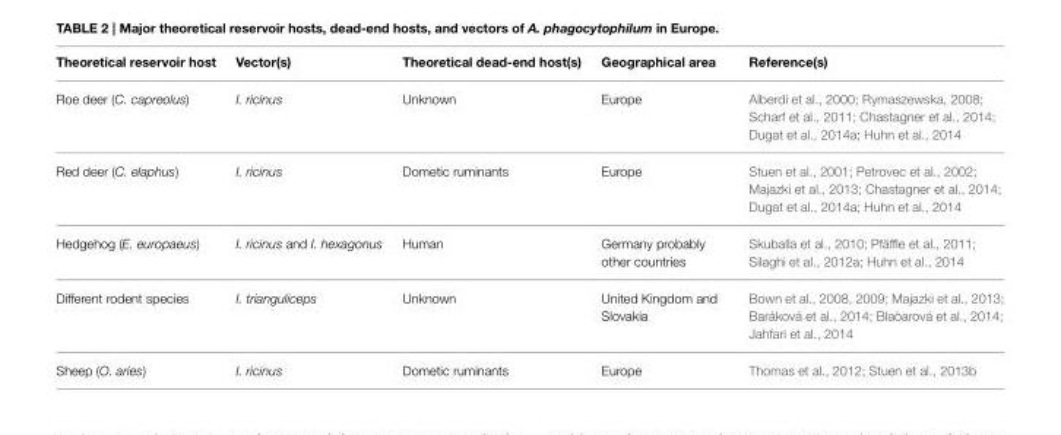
<table><thead><tr><td>Theoretical reservoir host</td><td>Vector(s)</td><td>Theoretical dead-end host(s)</td><td>Geographical area</td><td>Reference(s)</td></tr></thead><tbody><tr><td>Roe deer (C. capreolus)</td><td>I. ricinus</td><td>Unknown</td><td>Europe</td><td>Alberdi et al., 2000; Rymaszewska, 2008; Scharf et al., 2011; Chastagner et al., 2014; Dugat et al., 2014a; Huhn et al., 2014</td></tr><tr><td>Red deer (C. elaphus)</td><td>I. ricinus</td><td>Dometic ruminants</td><td>Europe</td><td>Stuen et al., 2001; Petrovec et al., 2002; Majazki et al., 2013; Chastagner et al., 2014; Dugat et al., 2014a; Huhn et al., 2014</td></tr><tr><td>Hedgehog (E. europaeus)</td><td>I. ricinus and I. hexagonus</td><td>Human</td><td>Germany probably other countries</td><td>Skuballa et al., 2010; Pfäffle et al., 2011; Silaghi et al., 2012a; Huhn et al., 2014</td></tr><tr><td>Different rodent species</td><td>I. trianguliceps</td><td>Unknown</td><td>United Kingdom and Slovakia</td><td>Bown et al., 2008, 2009; Majazki et al., 2013; Baráková et al., 2014; Blaòarová et al., 2014; Jahfari et al., 2014</td></tr><tr><td>Sheep (O. aries)</td><td>I. ricinus</td><td>Dometic ruminants</td><td>Europe</td><td>Thomas et al., 2012; Stuen et al., 2013b</td></tr></tbody></table>